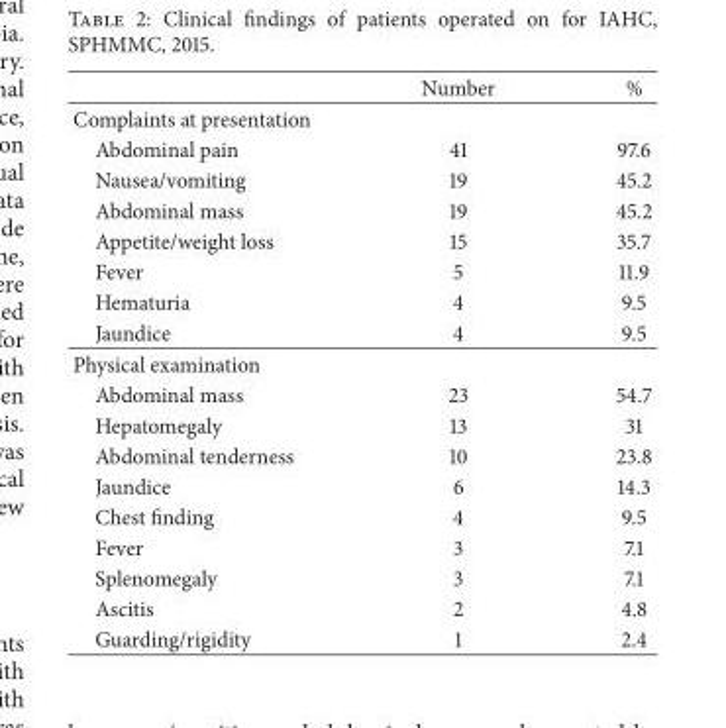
<table><thead><tr><td></td><td>Number</td><td>%</td></tr></thead><tbody><tr><td colspan="3">Complaints at presentation</td></tr><tr><td>Abdominal pain</td><td>41</td><td>97.6</td></tr><tr><td>Nausea/vomiting</td><td>19</td><td>45.2</td></tr><tr><td>Abdominal mass</td><td>19</td><td>45.2</td></tr><tr><td>Appetite/weight loss</td><td>15</td><td>35.7</td></tr><tr><td>Fever</td><td>5</td><td>11.9</td></tr><tr><td>Hematuria</td><td>4</td><td>9.5</td></tr><tr><td>Jaundice</td><td>4</td><td>9.5</td></tr><tr><td colspan="3">Physical examination</td></tr><tr><td>Abdominal mass</td><td>23</td><td>54.7</td></tr><tr><td>Hepatomegaly</td><td>13</td><td>31</td></tr><tr><td>Abdominal tenderness</td><td>10</td><td>23.8</td></tr><tr><td>Jaundice</td><td>6</td><td>14.3</td></tr><tr><td>Chest finding</td><td>4</td><td>9.5</td></tr><tr><td>Fever</td><td>3</td><td>7.1</td></tr><tr><td>Splenomegaly</td><td>3</td><td>7.1</td></tr><tr><td>Ascitis</td><td>2</td><td>4.8</td></tr><tr><td>Guarding/rigidity</td><td>1</td><td>2.4</td></tr></tbody></table>